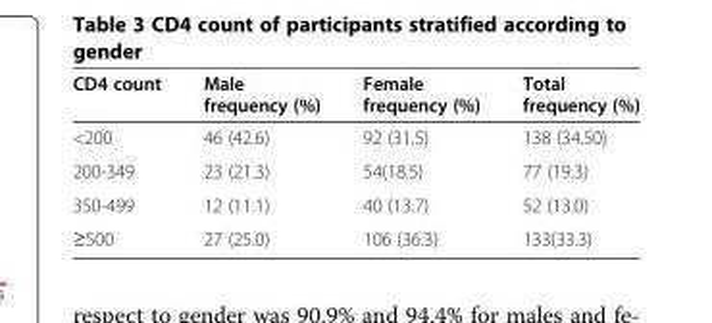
<table><thead><tr><td>CD4 count</td><td>Male frequency (%)</td><td>Female frequency (%)</td><td>Total frequency (%)</td></tr></thead><tbody><tr><td>&lt;200</td><td>46 (42.6)</td><td>92 (31.5)</td><td>138 (34.50)</td></tr><tr><td>200-349</td><td>23 (21.3)</td><td>54(18.5)</td><td>77 (19.3)</td></tr><tr><td>350-499</td><td>12 (11.1)</td><td>40 (13.7)</td><td>52 (13.0)</td></tr><tr><td>≥500</td><td>27 (25.0)</td><td>106 (36.3)</td><td>133(33.3)</td></tr></tbody></table>